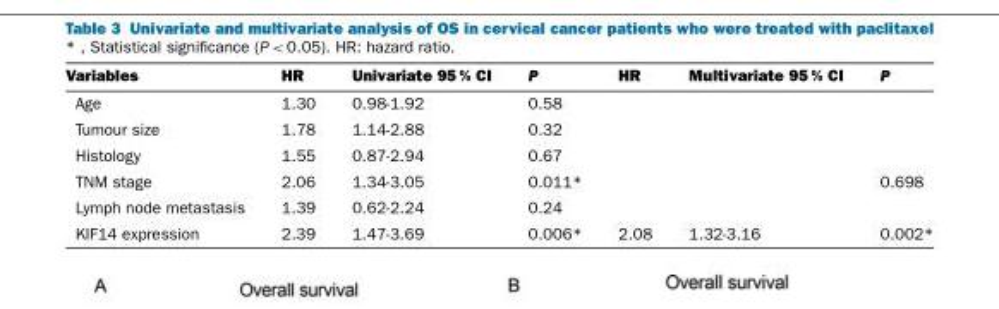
<table><thead><tr><td>Variables</td><td>HR</td><td>Univariate 95 % CI</td><td>P</td><td>HR</td><td>Multivariate 95 % CI</td><td>P</td></tr></thead><tbody><tr><td>Age</td><td>1.30</td><td>0.98-1.92</td><td>0.58</td><td></td><td></td><td></td></tr><tr><td>Tumour size</td><td>1.78</td><td>1.14-2.88</td><td>0.32</td><td></td><td></td><td></td></tr><tr><td>Histology</td><td>1.55</td><td>0.87-2.94</td><td>0.67</td><td></td><td></td><td></td></tr><tr><td>TNM stage</td><td>2.06</td><td>1.34-3.05</td><td>0.011*</td><td></td><td></td><td>0.698</td></tr><tr><td>Lymph node metastasis</td><td>1.39</td><td>0.62-2.24</td><td>0.24</td><td></td><td></td><td></td></tr><tr><td>KIF14 expression</td><td>2.39</td><td>1.47-3.69</td><td>0.006*</td><td>2.08</td><td>1.32-3.16</td><td>0.002*</td></tr></tbody></table>